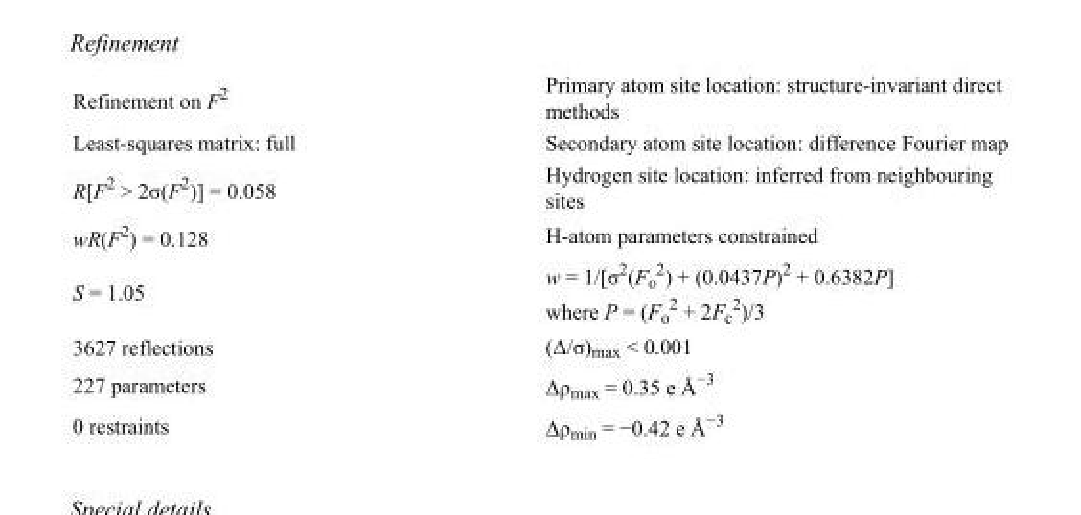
<table><tbody><tr><td>Refinement on F<sup>2</sup></td><td>Primary atom site location: structure-invariant direct methods</td></tr><tr><td>Least-squares matrix: full</td><td>Secondary atom site location: difference Fourier map</td></tr><tr><td>R[F<sup>2</sup> &gt; 2σ(F<sup>2</sup>)] = 0.058</td><td>Hydrogen site location: inferred from neighbouring sites</td></tr><tr><td>wR(F<sup>2</sup>) = 0.128</td><td>H-atom parameters constrained</td></tr><tr><td>S = 1.05</td><td>w = 1/[σ<sup>2</sup>(F<sub>o</sub> <sup>2</sup>) + (0.0437P)<sup>2</sup> + 0.6382P] where P = (F<sub>o</sub> <sup>2</sup> + 2F<sub>c</sub> <sup>2</sup>)/3</td></tr><tr><td>3627 reflections</td><td>(Δ/σ)<sub>max</sub> &lt; 0.001</td></tr><tr><td>227 parameters</td><td>Δρ<sub>max</sub> = 0.35 e Å<sup>−3</sup></td></tr><tr><td>0 restraints</td><td>Δρ<sub>min</sub> = −0.42 e Å<sup>−3</sup></td></tr></tbody></table>